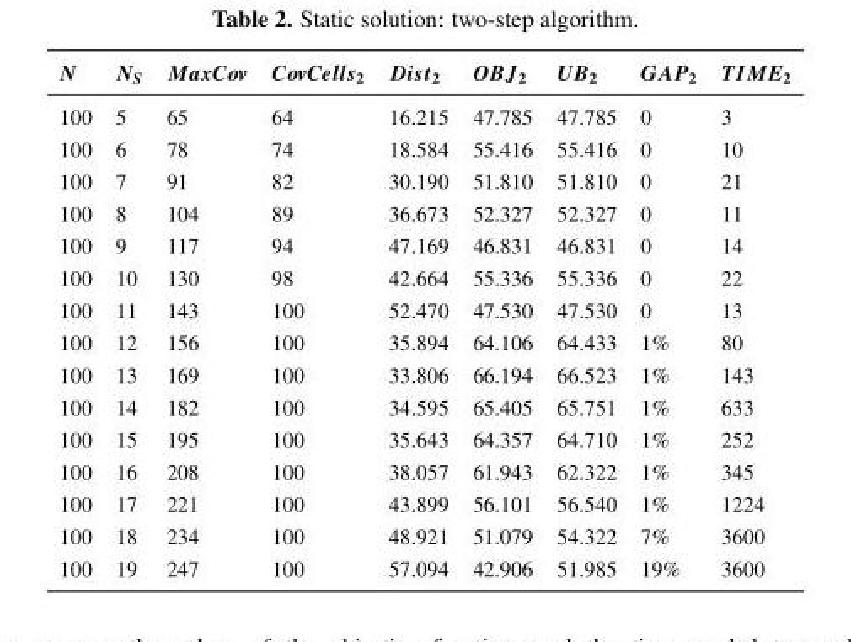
<table><thead><tr><td>N</td><td>N<sub>S</sub></td><td>MaxCov</td><td>CovCells<sub>2</sub></td><td>Dist<sub>2</sub></td><td>OBJ<sub>2</sub></td><td>UB<sub>2</sub></td><td>GAP<sub>2</sub></td><td>TIME<sub>2</sub></td></tr></thead><tbody><tr><td>100</td><td>5</td><td>65</td><td>64</td><td>16.215</td><td>47.785</td><td>47.785</td><td>0</td><td>3</td></tr><tr><td>100</td><td>6</td><td>78</td><td>74</td><td>18.584</td><td>55.416</td><td>55.416</td><td>0</td><td>10</td></tr><tr><td>100</td><td>7</td><td>91</td><td>82</td><td>30.190</td><td>51.810</td><td>51.810</td><td>0</td><td>21</td></tr><tr><td>100</td><td>8</td><td>104</td><td>89</td><td>36.673</td><td>52.327</td><td>52.327</td><td>0</td><td>11</td></tr><tr><td>100</td><td>9</td><td>117</td><td>94</td><td>47.169</td><td>46.831</td><td>46.831</td><td>0</td><td>14</td></tr><tr><td>100</td><td>10</td><td>130</td><td>98</td><td>42.664</td><td>55.336</td><td>55.336</td><td>0</td><td>22</td></tr><tr><td>100</td><td>11</td><td>143</td><td>100</td><td>52.470</td><td>47.530</td><td>47.530</td><td>0</td><td>13</td></tr><tr><td>100</td><td>12</td><td>156</td><td>100</td><td>35.894</td><td>64.106</td><td>64.433</td><td>1%</td><td>80</td></tr><tr><td>100</td><td>13</td><td>169</td><td>100</td><td>33.806</td><td>66.194</td><td>66.523</td><td>1%</td><td>143</td></tr><tr><td>100</td><td>14</td><td>182</td><td>100</td><td>34.595</td><td>65.405</td><td>65.751</td><td>1%</td><td>633</td></tr><tr><td>100</td><td>15</td><td>195</td><td>100</td><td>35.643</td><td>64.357</td><td>64.710</td><td>1%</td><td>252</td></tr><tr><td>100</td><td>16</td><td>208</td><td>100</td><td>38.057</td><td>61.943</td><td>62.322</td><td>1%</td><td>345</td></tr><tr><td>100</td><td>17</td><td>221</td><td>100</td><td>43.899</td><td>56.101</td><td>56.540</td><td>1%</td><td>1224</td></tr><tr><td>100</td><td>18</td><td>234</td><td>100</td><td>48.921</td><td>51.079</td><td>54.322</td><td>7%</td><td>3600</td></tr><tr><td>100</td><td>19</td><td>247</td><td>100</td><td>57.094</td><td>42.906</td><td>51.985</td><td>19%</td><td>3600</td></tr></tbody></table>